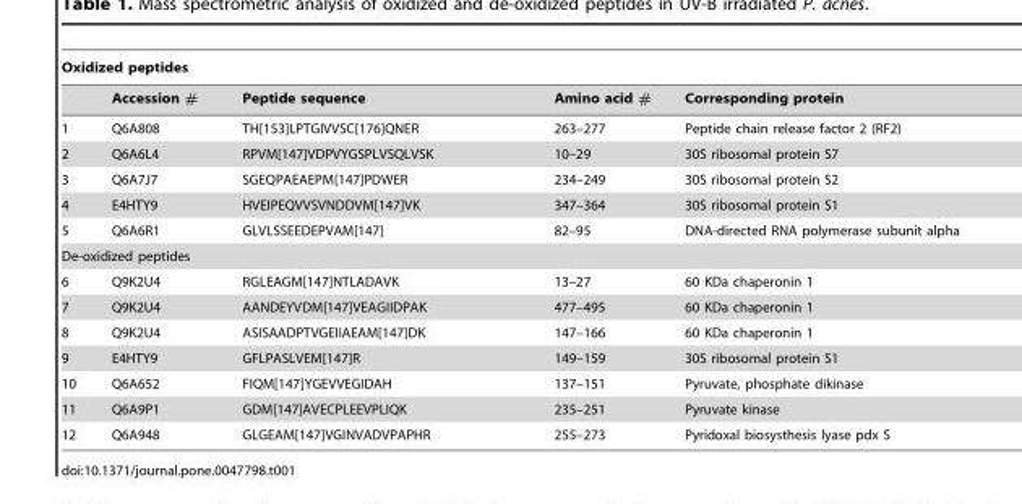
<table><thead><tr><td colspan="5">Oxidized peptides</td></tr><tr><td></td><td>Accession #</td><td>Peptide sequence</td><td>Amino acid #</td><td>Corresponding protein</td></tr></thead><tbody><tr><td>1</td><td>Q6A808</td><td>TH[153]LPTGIVVSC[176]QNER</td><td>263–277</td><td>Peptide chain release factor 2 (RF2)</td></tr><tr><td>2</td><td>Q6A6L4</td><td>RPVM[147]VDPVYGSPLVSQLVSK</td><td>10–29</td><td>30S ribosomal protein S7</td></tr><tr><td>3</td><td>Q6A7J7</td><td>SGEQPAEAEPM[147]PDWER</td><td>234–249</td><td>30S ribosomal protein S2</td></tr><tr><td>4</td><td>E4HTY9</td><td>HVEIPEQVVSVNDDVM[147]VK</td><td>347–364</td><td>30S ribosomal protein S1</td></tr><tr><td>5</td><td>Q6A6R1</td><td>GLVLSSEEDEPVAM[147]</td><td>82–95</td><td>DNA-directed RNA polymerase subunit alpha</td></tr><tr><td colspan="5">De-oxidized peptides</td></tr><tr><td>6</td><td>Q9K2U4</td><td>RGLEAGM[147]NTLADAVK</td><td>13–27</td><td>60 KDa chaperonin 1</td></tr><tr><td>7</td><td>Q9K2U4</td><td>AANDEYVDM[147]VEAGIIDPAK</td><td>477–495</td><td>60 KDa chaperonin 1</td></tr><tr><td>8</td><td>Q9K2U4</td><td>ASISAADPTVGEIIAEAM[147]DK</td><td>147–166</td><td>60 KDa chaperonin 1</td></tr><tr><td>9</td><td>E4HTY9</td><td>GFLPASLVEM[147]R</td><td>149–159</td><td>30S ribosomal protein S1</td></tr><tr><td>10</td><td>Q6A652</td><td>FIQM[147]YGEVVEGIDAH</td><td>137–151</td><td>Pyruvate, phosphate dikinase</td></tr><tr><td>11</td><td>Q6A9P1</td><td>GDM[147]AVECPLEEVPLIQK</td><td>235–251</td><td>Pyruvate kinase</td></tr><tr><td>12</td><td>Q6A948</td><td>GLGEAM[147]VGINVADVPAPHR</td><td>255–273</td><td>Pyridoxal biosysthesis lyase pdx S</td></tr></tbody></table>